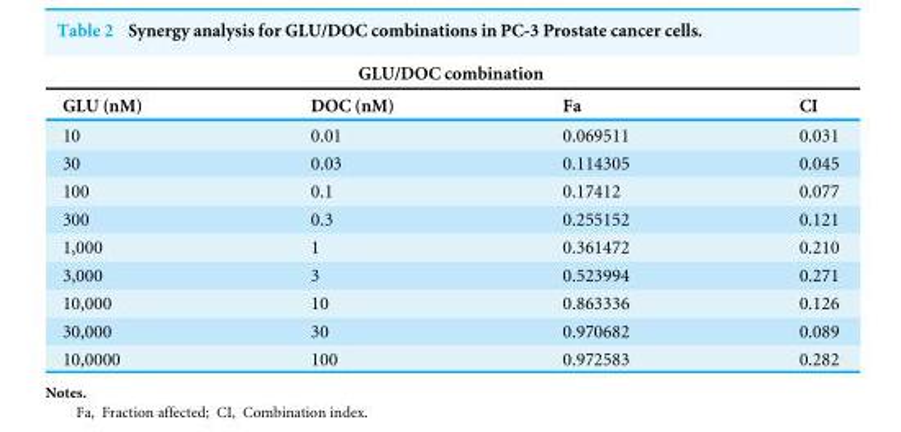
<table><thead><tr><td colspan="4">GLU/DOC combination</td></tr><tr><td>GLU (nM)</td><td>DOC (nM)</td><td>Fa</td><td>CI</td></tr></thead><tbody><tr><td>10</td><td>0.01</td><td>0.069511</td><td>0.031</td></tr><tr><td>30</td><td>0.03</td><td>0.114305</td><td>0.045</td></tr><tr><td>100</td><td>0.1</td><td>0.17412</td><td>0.077</td></tr><tr><td>300</td><td>0.3</td><td>0.255152</td><td>0.121</td></tr><tr><td>1,000</td><td>1</td><td>0.361472</td><td>0.210</td></tr><tr><td>3,000</td><td>3</td><td>0.523994</td><td>0.271</td></tr><tr><td>10,000</td><td>10</td><td>0.863336</td><td>0.126</td></tr><tr><td>30,000</td><td>30</td><td>0.970682</td><td>0.089</td></tr><tr><td>10,0000</td><td>100</td><td>0.972583</td><td>0.282</td></tr></tbody></table>